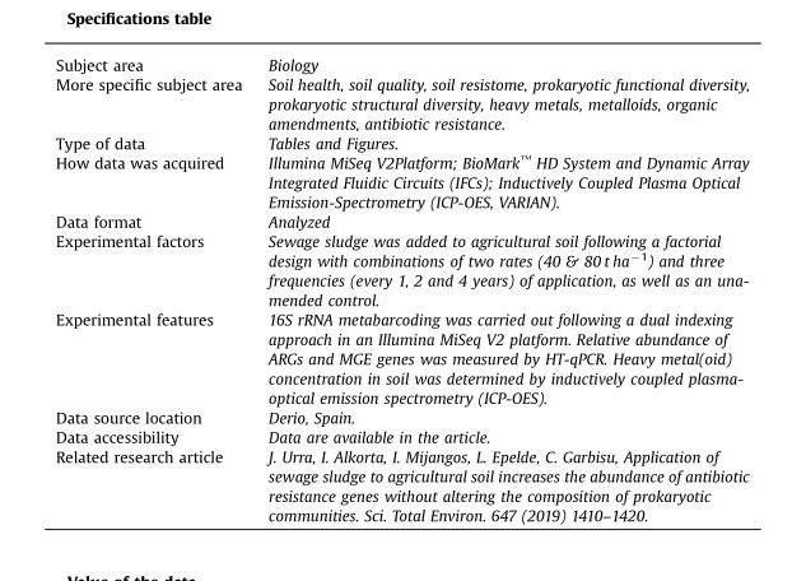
<table><tbody><tr><td>Subject area</td><td>Biology</td></tr><tr><td>More specific subject area</td><td>Soil health, soil quality, soil resistome, prokaryotic functional diversity, prokaryotic structural diversity, heavy metals, metalloids, organic amendments, antibiotic resistance.</td></tr><tr><td>Type of data</td><td>Tables and Figures.</td></tr><tr><td>How data was acquired</td><td>Illumina MiSeq V2Platform; BioMark<sup>™</sup> HD System and Dynamic Array Integrated Fluidic Circuits (IFCs); Inductively Coupled Plasma Optical Emission-Spectrometry (ICP-OES, VARIAN).</td></tr><tr><td>Data format</td><td>Analyzed</td></tr><tr><td>Experimental factors</td><td>Sewage sludge was added to agricultural soil following a factorial design with combinations of two rates (40 &amp; 80 t ha�1) and three frequencies (every 1, 2 and 4 years) of application, as well as an una- mended control.</td></tr><tr><td>Experimental features</td><td>16S rRNA metabarcoding was carried out following a dual indexing approach in an Illumina MiSeq V2 platform. Relative abundance of ARGs and MGE genes was measured by HT-qPCR. Heavy metal(oid) concentration in soil was determined by inductively coupled plasma- optical emission spectrometry (ICP-OES).</td></tr><tr><td>Data source location</td><td>Derio, Spain.</td></tr><tr><td>Data accessibility</td><td>Data are available in the article.</td></tr><tr><td>Related research article</td><td>J. Urra, I. Alkorta, I. Mijangos, L. Epelde, C. Garbisu, Application of sewage sludge to agricultural soil increases the abundance of antibiotic resistance genes without altering the composition of prokaryotic communities. Sci. Total Environ. 647 (2019) 1410–1420.</td></tr></tbody></table>